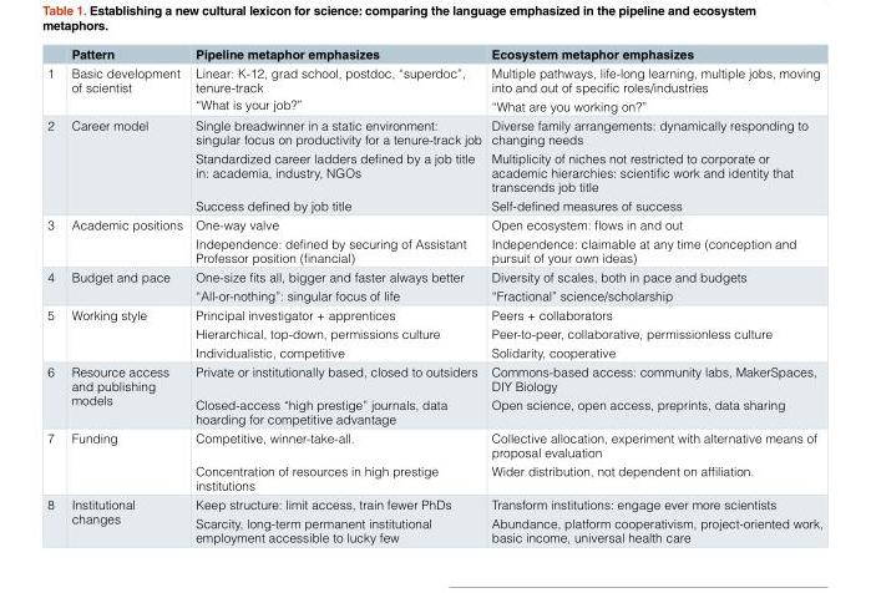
<table><thead><tr><td></td><td>Pattern</td><td>Pipeline metaphor emphasizes</td><td>Ecosystem metaphor emphasizes</td></tr></thead><tbody><tr><td>1</td><td>Basic development of scientist</td><td>Linear: K-12, grad school, postdoc, “superdoc”, tenure-track “What is your job?”</td><td>Multiple pathways, life-long learning, multiple jobs, moving into and out of specific roles/industries “What are you working on?”</td></tr><tr><td>2</td><td>Career model</td><td>Single breadwinner in a static environment: singular focus on productivity for a tenure-track job Standardized career ladders defined by a job title in: academia, industry, NGOs Success defined by job title</td><td>Diverse family arrangements: dynamically responding to changing needs Multiplicity of niches not restricted to corporate or academic hierarchies: scientific work and identity that transcends job title Self-defined measures of success</td></tr><tr><td>3</td><td>Academic positions</td><td>One-way valve Independence: defined by securing of Assistant Professor position (financial)</td><td>Open ecosystem: flows in and out Independence: claimable at any time (conception and pursuit of your own ideas)</td></tr><tr><td>4</td><td>Budget and pace</td><td>One-size fits all, bigger and faster always better “All-or-nothing”: singular focus of life</td><td>Diversity of scales, both in pace and budgets “Fractional” science/scholarship</td></tr><tr><td>5</td><td>Working style</td><td>Principal investigator + apprentices Hierarchical, top-down, permissions culture Individualistic, competitive</td><td>Peers + collaborators Peer-to-peer, collaborative, permissionless culture Solidarity, cooperative</td></tr><tr><td>6</td><td>Resource access and publishing models</td><td>Private or institutionally based, closed to outsiders Closed-access “high prestige” journals, data hoarding for competitive advantage</td><td>Commons-based access: community labs, MakerSpaces, DIY Biology Open science, open access, preprints, data sharing</td></tr><tr><td>7</td><td>Funding</td><td>Competitive, winner-take-all. Concentration of resources in high prestige institutions</td><td>Collective allocation, experiment with alternative means of proposal evaluation Wider distribution, not dependent on affiliation.</td></tr><tr><td>8</td><td>Institutional changes</td><td>Keep structure: limit access, train fewer PhDs Scarcity, long-term permanent institutional employment accessible to lucky few</td><td>Transform institutions: engage ever more scientists Abundance, platform cooperativism, project-oriented work, basic income, universal health care</td></tr></tbody></table>